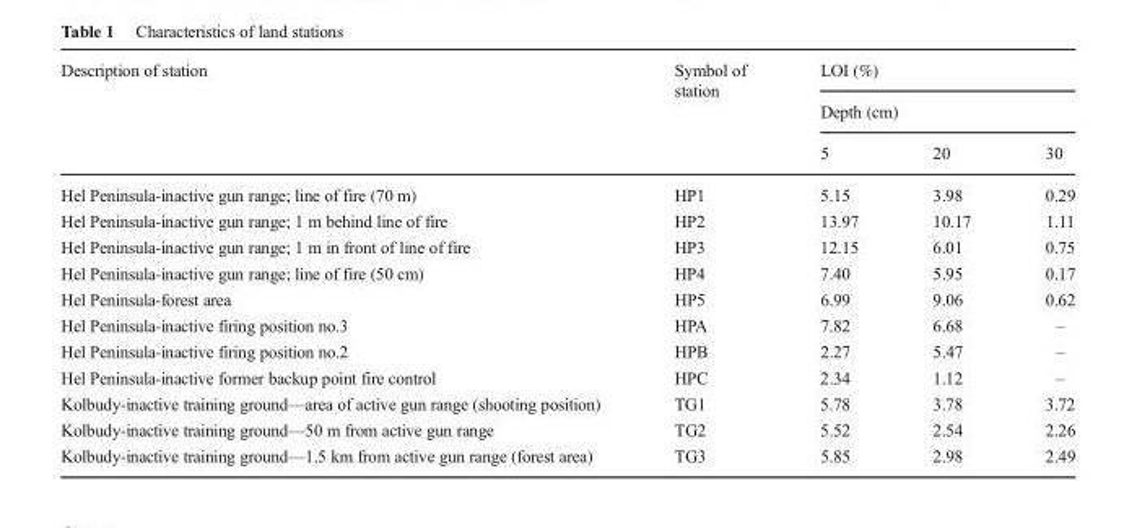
<table><thead><tr><td rowspan="3">Description of station</td><td rowspan="3">Symbol of station</td><td rowspan="2" colspan="3">LOI (%) Depth (cm)</td></tr><tr></tr><tr><td>5</td><td>20</td><td>30</td></tr></thead><tbody><tr><td>Hel Peninsula-inactive gun range; line of fire (70 m)</td><td>HP1</td><td>5.15</td><td>3.98</td><td>0.29</td></tr><tr><td>Hel Peninsula-inactive gun range; 1 m behind line of fire</td><td>HP2</td><td>13.97</td><td>10.17</td><td>1.11</td></tr><tr><td>Hel Peninsula-inactive gun range; 1 m in front of line of fire</td><td>HP3</td><td>12.15</td><td>6.01</td><td>0.75</td></tr><tr><td>Hel Peninsula-inactive gun range; line of fire (50 cm)</td><td>HP4</td><td>7.40</td><td>5.95</td><td>0.17</td></tr><tr><td>Hel Peninsula-forest area</td><td>HP5</td><td>6.99</td><td>9.06</td><td>0.62</td></tr><tr><td>Hel Peninsula-inactive firing position no.3</td><td>HPA</td><td>7.82</td><td>6.68</td><td>–</td></tr><tr><td>Hel Peninsula-inactive firing position no.2</td><td>HPB</td><td>2.27</td><td>5.47</td><td>–</td></tr><tr><td>Hel Peninsula-inactive former backup point fire control</td><td>HPC</td><td>2.34</td><td>1.12</td><td>–</td></tr><tr><td>Kolbudy-inactive training ground—area of active gun range (shooting position)</td><td>TG1</td><td>5.78</td><td>3.78</td><td>3.72</td></tr><tr><td>Kolbudy-inactive training ground—50 m from active gun range</td><td>TG2</td><td>5.52</td><td>2.54</td><td>2.26</td></tr><tr><td>Kolbudy-inactive training ground—1.5 km from active gun range (forest area)</td><td>TG3</td><td>5.85</td><td>2.98</td><td>2.49</td></tr></tbody></table>